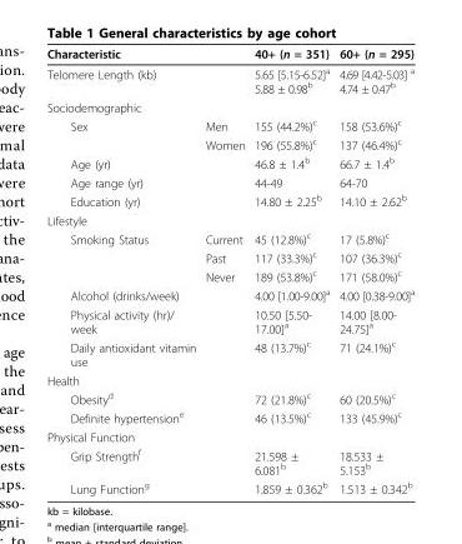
<table><thead><tr><td>Characteristic</td><td></td><td>40+ (n = 351)</td><td>60+ (n = 295)</td></tr></thead><tbody><tr><td>Telomere Length (kb)</td><td></td><td>5.65 [5.15-6.52]<sup>a</sup> 5.88 ± 0.98<sup>b</sup></td><td>4.69 [4.42-5.03] <sup>a</sup> 4.74 ± 0.47<sup>b</sup></td></tr><tr><td colspan="4">Sociodemographic</td></tr><tr><td rowspan="2">Sex</td><td>Men</td><td>155 (44.2%)<sup>c</sup></td><td>158 (53.6%)<sup>c</sup></td></tr><tr><td>Women</td><td>196 (55.8%)<sup>c</sup></td><td>137 (46.4%)<sup>c</sup></td></tr><tr><td>Age (yr)</td><td></td><td>46.8 ± 1.4<sup>b</sup></td><td>66.7 ± 1.4<sup>b</sup></td></tr><tr><td>Age range (yr)</td><td></td><td>44-49</td><td>64-70</td></tr><tr><td>Education (yr)</td><td></td><td>14.80 ± 2.25<sup>b</sup></td><td>14.10 ± 2.62<sup>b</sup></td></tr><tr><td colspan="4">Lifestyle</td></tr><tr><td rowspan="3">Smoking Status</td><td>Current</td><td>45 (12.8%)<sup>c</sup></td><td>17 (5.8%)<sup>c</sup></td></tr><tr><td>Past</td><td>117 (33.3%)<sup>c</sup></td><td>107 (36.3%)<sup>c</sup></td></tr><tr><td>Never</td><td>189 (53.8%)<sup>c</sup></td><td>171 (58.0%)<sup>c</sup></td></tr><tr><td>Alcohol (drinks/week)</td><td></td><td>4.00 [1.00-9.00]<sup>a</sup></td><td>4.00 [0.38-9.00]<sup>a</sup></td></tr><tr><td>Physical activity (hr)/ week</td><td></td><td>10.50 [5.50- 17.00]<sup>a</sup></td><td>14.00 [8.00- 24.75]<sup>a</sup></td></tr><tr><td>Daily antioxidant vitamin use</td><td></td><td>48 (13.7%)<sup>c</sup></td><td>71 (24.1%)<sup>c</sup></td></tr><tr><td colspan="4">Health</td></tr><tr><td>Obesity<sup>d</sup></td><td></td><td>72 (21.8%)<sup>c</sup></td><td>60 (20.5%)<sup>c</sup></td></tr><tr><td>Definite hypertension<sup>e</sup></td><td></td><td>46 (13.5%)<sup>c</sup></td><td>133 (45.9%)<sup>c</sup></td></tr><tr><td colspan="4">Physical Function</td></tr><tr><td>Grip Strength<sup>f</sup></td><td></td><td>21.598 ± 6.081<sup>b</sup></td><td>18.533 ± 5.153<sup>b</sup></td></tr><tr><td>Lung Function<sup>g</sup></td><td></td><td>1.859 ± 0.362<sup>b</sup></td><td>1.513 ± 0.342<sup>b</sup></td></tr></tbody></table>